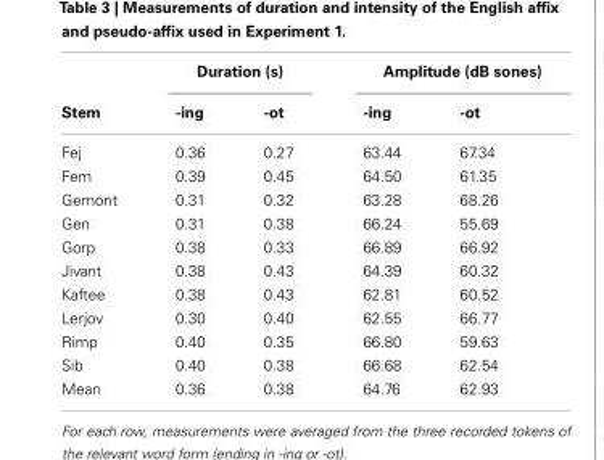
<table><thead><tr><td rowspan="2">Stem</td><td colspan="2">Duration (s)</td><td colspan="2">Amplitude (dB sones)</td></tr><tr><td>-ing</td><td>-ot</td><td>-ing</td><td>-ot</td></tr></thead><tbody><tr><td>Fej</td><td>0.36</td><td>0.27</td><td>63.44</td><td>67.34</td></tr><tr><td>Fem</td><td>0.39</td><td>0.45</td><td>64.50</td><td>61.35</td></tr><tr><td>Gemont</td><td>0.31</td><td>0.32</td><td>63.28</td><td>68.26</td></tr><tr><td>Gen</td><td>0.31</td><td>0.38</td><td>66.24</td><td>55.69</td></tr><tr><td>Gorp</td><td>0.38</td><td>0.33</td><td>66.89</td><td>66.92</td></tr><tr><td>Jivant</td><td>0.38</td><td>0.43</td><td>64.39</td><td>60.32</td></tr><tr><td>Kaftee</td><td>0.38</td><td>0.43</td><td>62.81</td><td>60.52</td></tr><tr><td>Lerjov</td><td>0.30</td><td>0.40</td><td>62.55</td><td>66.77</td></tr><tr><td>Rimp</td><td>0.40</td><td>0.35</td><td>66.80</td><td>59.63</td></tr><tr><td>Sib</td><td>0.40</td><td>0.38</td><td>66.68</td><td>62.54</td></tr><tr><td>Mean</td><td>0.36</td><td>0.38</td><td>64.76</td><td>62.93</td></tr></tbody></table>